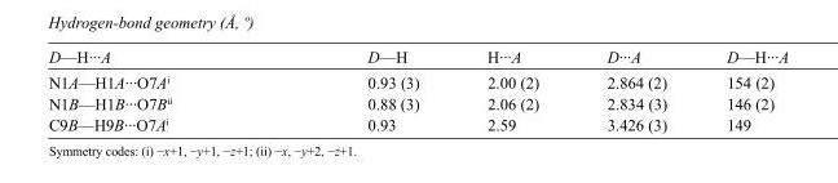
<table><tbody><tr><td>D—H···A</td><td>D—H</td><td>H···A</td><td>D···A</td><td>D—H···A</td></tr><tr><td>N1A—H1A···O7A<sup>i</sup></td><td>0.93 (3)</td><td>2.00 (2)</td><td>2.864 (2)</td><td>154 (2)</td></tr><tr><td>N1B—H1B···O7B<sup>ii</sup></td><td>0.88 (3)</td><td>2.06 (2)</td><td>2.834 (3)</td><td>146 (2)</td></tr><tr><td>C9B—H9B···O7A<sup>i</sup></td><td>0.93</td><td>2.59</td><td>3.426 (3)</td><td>149</td></tr></tbody></table>